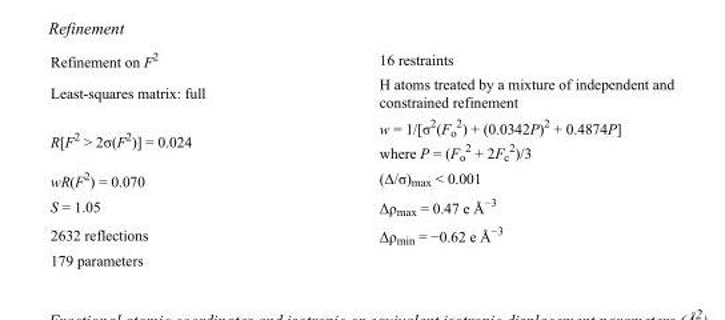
<table><tbody><tr><td>Refinement on F<sup>2</sup></td><td>16 restraints</td></tr><tr><td>Least-squares matrix: full</td><td>H atoms treated by a mixture of independent and constrained refinement</td></tr><tr><td>R[F<sup>2</sup> &gt; 2σ(F<sup>2</sup>)] = 0.024</td><td>w = 1/[σ<sup>2</sup>(F<sub>o</sub> <sup>2</sup>) + (0.0342P)<sup>2</sup> + 0.4874P] where P = (F<sub>o</sub> <sup>2</sup> + 2F<sub>c</sub> <sup>2</sup>)/3</td></tr><tr><td>wR(F<sup>2</sup>) = 0.070</td><td>(Δ/σ)<sub>max</sub> &lt; 0.001</td></tr><tr><td>S = 1.05</td><td>Δρ<sub>max</sub> = 0.47 e Å<sup>−3</sup></td></tr><tr><td>2632 reflections</td><td>Δρ<sub>min</sub> = −0.62 e Å<sup>−3</sup></td></tr><tr><td>179 parameters</td><td></td></tr></tbody></table>